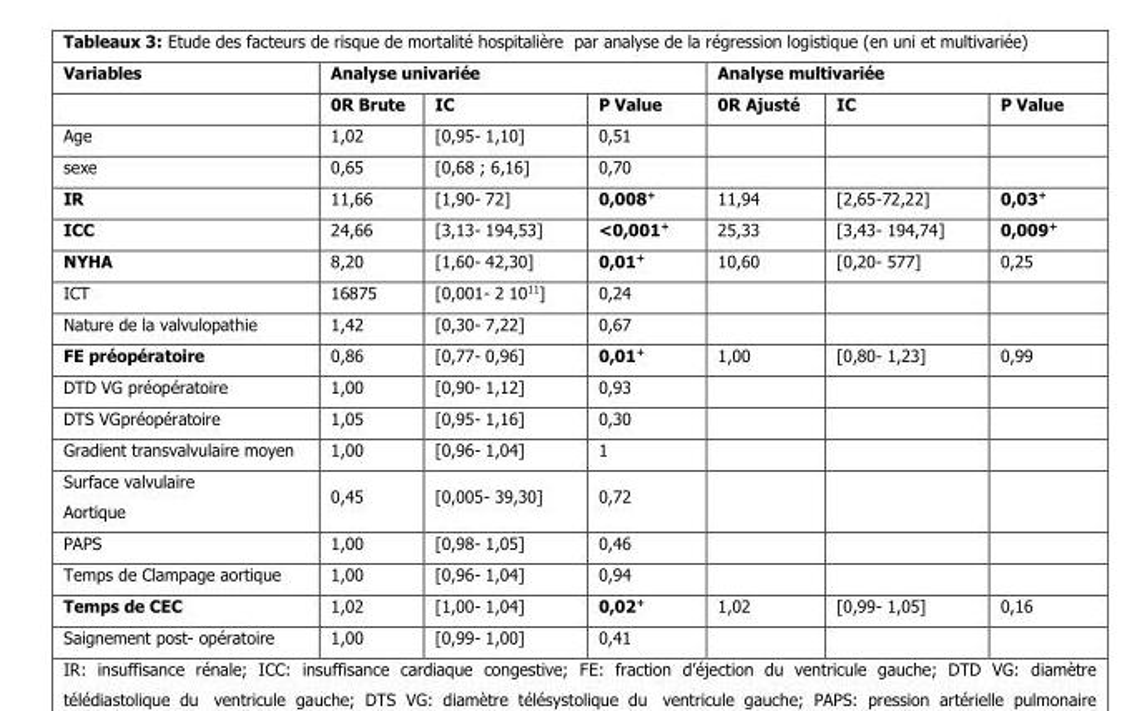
<table><thead><tr><td rowspan="2">Variables</td><td colspan="3">Analyse univariée</td><td colspan="3">Analyse multivariée</td></tr><tr><td>0R Brute</td><td>IC</td><td>P Value</td><td>0R Ajusté</td><td>IC</td><td>P Value</td></tr></thead><tbody><tr><td>Age</td><td>1,02</td><td>[0,95- 1,10]</td><td>0,51</td><td></td><td></td><td></td></tr><tr><td>sexe</td><td>0,65</td><td>[0,68 ; 6,16]</td><td>0,70</td><td></td><td></td><td></td></tr><tr><td>IR</td><td>11,66</td><td>[1,90- 72]</td><td>0,008<sup>+</sup></td><td>11,94</td><td>[2,65-72,22]</td><td>0,03<sup>+</sup></td></tr><tr><td>ICC</td><td>24,66</td><td>[3,13- 194,53]</td><td>&lt;0,001<sup>+</sup></td><td>25,33</td><td>[3,43- 194,74]</td><td>0,009<sup>+</sup></td></tr><tr><td>NYHA</td><td>8,20</td><td>[1,60- 42,30]</td><td>0,01<sup>+</sup></td><td>10,60</td><td>[0,20- 577]</td><td>0,25</td></tr><tr><td>ICT</td><td>16875</td><td>[0,001- 2 10<sup>11</sup>]</td><td>0,24</td><td></td><td></td><td></td></tr><tr><td>Nature de la valvulopathie</td><td>1,42</td><td>[0,30- 7,22]</td><td>0,67</td><td></td><td></td><td></td></tr><tr><td>FE préopératoire</td><td>0,86</td><td>[0,77- 0,96]</td><td>0,01<sup>+</sup></td><td>1,00</td><td>[0,80- 1,23]</td><td>0,99</td></tr><tr><td>DTD VG préopératoire</td><td>1,00</td><td>[0,90- 1,12]</td><td>0,93</td><td></td><td></td><td></td></tr><tr><td>DTS VGpréopératoire</td><td>1,05</td><td>[0,95- 1,16]</td><td>0,30</td><td></td><td></td><td></td></tr><tr><td>Gradient transvalvulaire moyen</td><td>1,00</td><td>[0,96- 1,04]</td><td>1</td><td></td><td></td><td></td></tr><tr><td>Surface valvulaire Aortique</td><td>0,45</td><td>[0,005- 39,30]</td><td>0,72</td><td></td><td></td><td></td></tr><tr><td>PAPS</td><td>1,00</td><td>[0,98- 1,05]</td><td>0,46</td><td></td><td></td><td></td></tr><tr><td>Temps de Clampage aortique</td><td>1,00</td><td>[0,96- 1,04]</td><td>0,94</td><td></td><td></td><td></td></tr><tr><td>Temps de CEC</td><td>1,02</td><td>[1,00- 1,04]</td><td>0,02<sup>+</sup></td><td>1,02</td><td>[0,99- 1,05]</td><td>0,16</td></tr><tr><td>Saignement post- opératoire</td><td>1,00</td><td>[0,99- 1,00]</td><td>0,41</td><td></td><td></td><td></td></tr></tbody></table>